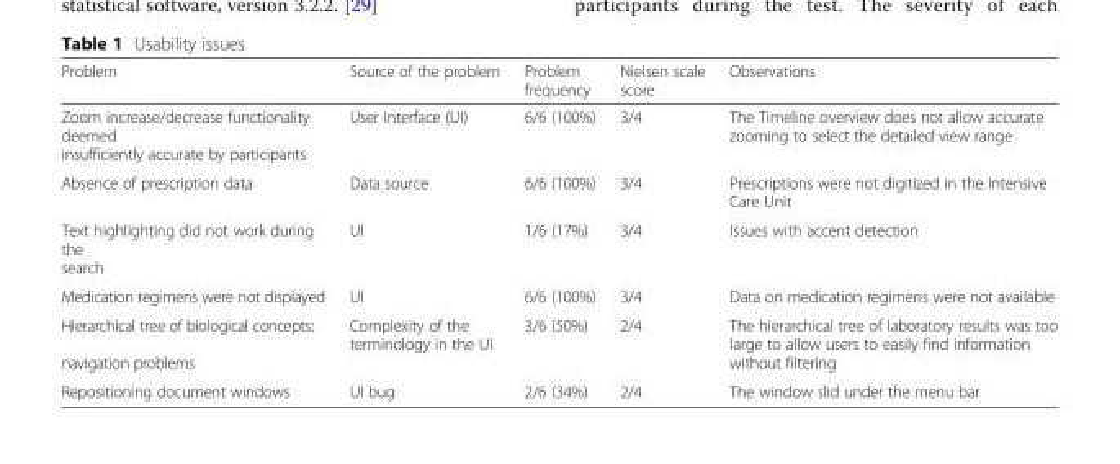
<table><thead><tr><td>Problem</td><td>Source of the problem</td><td>Problem frequency</td><td>Nielsen scale score</td><td>Observations</td></tr></thead><tbody><tr><td>Zoom increase/decrease functionality deemed insufficiently accurate by participants</td><td>User Interface (UI)</td><td>6/6 (100%)</td><td>3/4</td><td>The Timeline overview does not allow accurate zooming to select the detailed view range</td></tr><tr><td>Absence of prescription data</td><td>Data source</td><td>6/6 (100%)</td><td>3/4</td><td>Prescriptions were not digitized in the Intensive Care Unit</td></tr><tr><td>Text highlighting did not work during the search</td><td>UI</td><td>1/6 (17%)</td><td>3/4</td><td>Issues with accent detection</td></tr><tr><td>Medication regimens were not displayed</td><td>UI</td><td>6/6 (100%)</td><td>3/4</td><td>Data on medication regimens were not available</td></tr><tr><td>Hierarchical tree of biological concepts: navigation problems</td><td>Complexity of the terminology in the UI</td><td>3/6 (50%)</td><td>2/4</td><td>The hierarchical tree of laboratory results was too large to allow users to easily find information without filtering</td></tr><tr><td>Repositioning document windows</td><td>UI bug</td><td>2/6 (34%)</td><td>2/4</td><td>The window slid under the menu bar</td></tr></tbody></table>